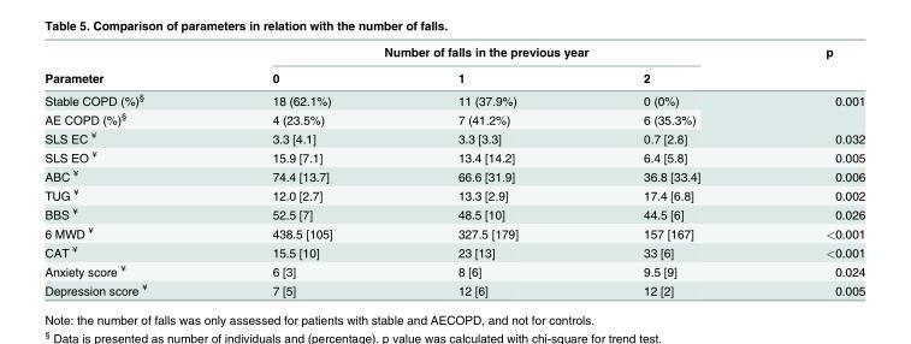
<table><thead><tr><td rowspan="2">Parameter</td><td colspan="3">Number of falls in the previous year</td><td rowspan="2">p</td></tr><tr><td>0</td><td>1</td><td>2</td></tr></thead><tbody><tr><td>Stable COPD (%)<sup>§</sup></td><td>18 (62.1%)</td><td>11 (37.9%)</td><td>0 (0%)</td><td rowspan="2">0.001</td></tr><tr><td>AE COPD (%)<sup>§</sup></td><td>4 (23.5%)</td><td>7 (41.2%)</td><td>6 (35.3%)</td></tr><tr><td>SLS EC <sup>¥</sup></td><td>3.3 [4.1]</td><td>3.3 [3.3]</td><td>0.7 [2.8]</td><td>0.032</td></tr><tr><td>SLS EO <sup>¥</sup></td><td>15.9 [7.1]</td><td>13.4 [14.2]</td><td>6.4 [5.8]</td><td>0.005</td></tr><tr><td>ABC <sup>¥</sup></td><td>74.4 [13.7]</td><td>66.6 [31.9]</td><td>36.8 [33.4]</td><td>0.006</td></tr><tr><td>TUG <sup>¥</sup></td><td>12.0 [2.7]</td><td>13.3 [2.9]</td><td>17.4 [6.8]</td><td>0.002</td></tr><tr><td>BBS <sup>¥</sup></td><td>52.5 [7]</td><td>48.5 [10]</td><td>44.5 [6]</td><td>0.026</td></tr><tr><td>6 MWD <sup>¥</sup></td><td>438.5 [105]</td><td>327.5 [179]</td><td>157 [167]</td><td>&lt;0.001</td></tr><tr><td>CAT <sup>¥</sup></td><td>15.5 [10]</td><td>23 [13]</td><td>33 [6]</td><td>&lt;0.001</td></tr><tr><td>Anxiety score <sup>¥</sup></td><td>6 [3]</td><td>8 [6]</td><td>9.5 [9]</td><td>0.024</td></tr><tr><td>Depression score <sup>¥</sup></td><td>7 [5]</td><td>12 [6]</td><td>12 [2]</td><td>0.005</td></tr></tbody></table>